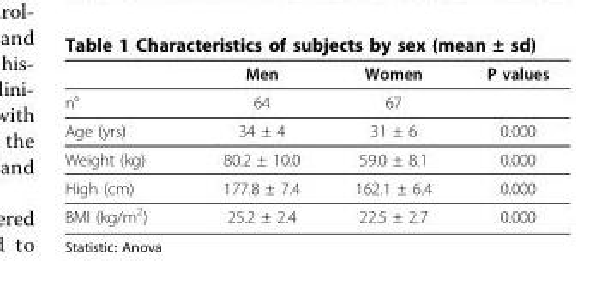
<table><thead><tr><td></td><td>Men</td><td>Women</td><td>P values</td></tr></thead><tbody><tr><td>n°</td><td>64</td><td>67</td><td></td></tr><tr><td>Age (yrs)</td><td>34 ± 4</td><td>31 ± 6</td><td>0.000</td></tr><tr><td>Weight (kg)</td><td>80.2 ± 10.0</td><td>59.0 ± 8.1</td><td>0.000</td></tr><tr><td>High (cm)</td><td>177.8 ± 7.4</td><td>162.1 ± 6.4</td><td>0.000</td></tr><tr><td>BMI (kg/m2)</td><td>25.2 ± 2.4</td><td>22.5 ± 2.7</td><td>0.000</td></tr></tbody></table>